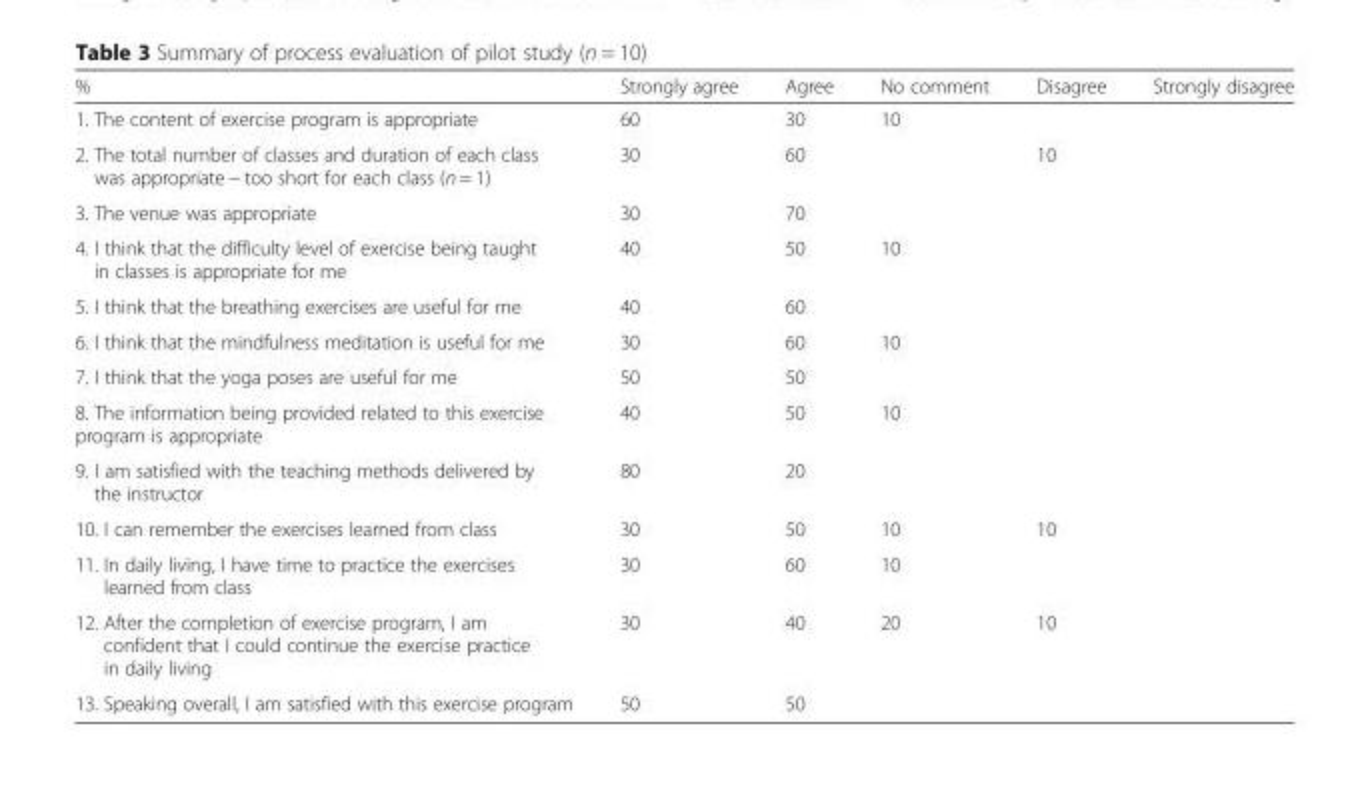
<table><thead><tr><td>%</td><td>Strongly agree</td><td>Agree</td><td>No comment</td><td>Disagree</td><td>Strongly disagree</td></tr></thead><tbody><tr><td>1. The content of exercise program is appropriate</td><td>60</td><td>30</td><td>10</td><td></td><td></td></tr><tr><td>2. The total number of classes and duration of each class was appropriate − too short for each class (n = 1)</td><td>30</td><td>60</td><td></td><td>10</td><td></td></tr><tr><td>3. The venue was appropriate</td><td>30</td><td>70</td><td></td><td></td><td></td></tr><tr><td>4. I think that the difficulty level of exercise being taught in classes is appropriate for me</td><td>40</td><td>50</td><td>10</td><td></td><td></td></tr><tr><td>5. I think that the breathing exercises are useful for me</td><td>40</td><td>60</td><td></td><td></td><td></td></tr><tr><td>6. I think that the mindfulness meditation is useful for me</td><td>30</td><td>60</td><td>10</td><td></td><td></td></tr><tr><td>7. I think that the yoga poses are useful for me</td><td>50</td><td>50</td><td></td><td></td><td></td></tr><tr><td>8. The information being provided related to this exercise program is appropriate</td><td>40</td><td>50</td><td>10</td><td></td><td></td></tr><tr><td>9. I am satisfied with the teaching methods delivered by the instructor</td><td>80</td><td>20</td><td></td><td></td><td></td></tr><tr><td>10. I can remember the exercises learned from class</td><td>30</td><td>50</td><td>10</td><td>10</td><td></td></tr><tr><td>11. In daily living, I have time to practice the exercises learned from class</td><td>30</td><td>60</td><td>10</td><td></td><td></td></tr><tr><td>12. After the completion of exercise program, I am confident that I could continue the exercise practice in daily living</td><td>30</td><td>40</td><td>20</td><td>10</td><td></td></tr><tr><td>13. Speaking overall, I am satisfied with this exercise program</td><td>50</td><td>50</td><td></td><td></td><td></td></tr></tbody></table>